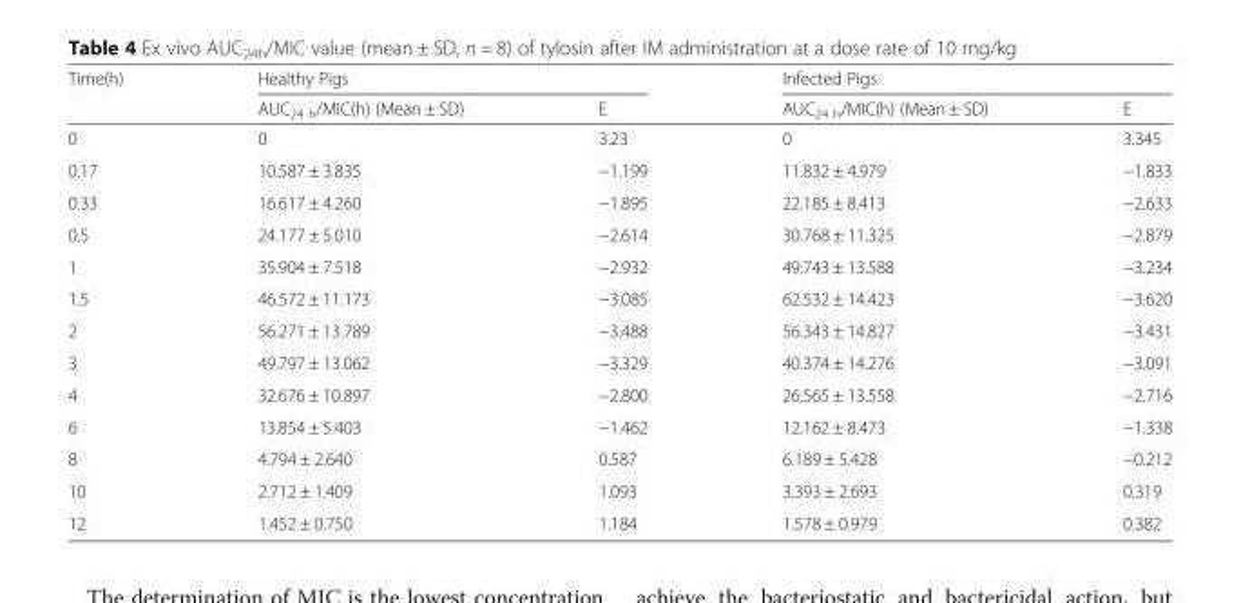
<table><thead><tr><td rowspan="2">Time(h)</td><td colspan="2">Healthy Pigs</td><td colspan="2">Infected Pigs</td></tr><tr><td>AUC<sub>24 h</sub>/MIC(h) (Mean ± SD)</td><td>E</td><td>AUC<sub>24 h</sub>/MIC(h) (Mean ± SD)</td><td>E</td></tr></thead><tbody><tr><td>0</td><td>0</td><td>3.23</td><td>0</td><td>3.345</td></tr><tr><td>0.17</td><td>10.587 ± 3.835</td><td>−1.199</td><td>11.832 ± 4.979</td><td>−1.833</td></tr><tr><td>0.33</td><td>16.617 ± 4.260</td><td>−1.895</td><td>22.185 ± 8.413</td><td>−2.633</td></tr><tr><td>0.5</td><td>24.177 ± 5.010</td><td>−2.614</td><td>30.768 ± 11.325</td><td>−2.879</td></tr><tr><td>1</td><td>35.904 ± 7.518</td><td>−2.932</td><td>49.743 ± 13.588</td><td>−3.234</td></tr><tr><td>1.5</td><td>46.572 ± 11.173</td><td>−3.085</td><td>62.532 ± 14.423</td><td>−3.620</td></tr><tr><td>2</td><td>56.271 ± 13.789</td><td>−3.488</td><td>56.343 ± 14.827</td><td>−3.431</td></tr><tr><td>3</td><td>49.797 ± 13.062</td><td>−3.329</td><td>40.374 ± 14.276</td><td>−3.091</td></tr><tr><td>4</td><td>32.676 ± 10.897</td><td>−2.800</td><td>26.565 ± 13.558</td><td>−2.716</td></tr><tr><td>6</td><td>13.854 ± 5.403</td><td>−1.462</td><td>12.162 ± 8.473</td><td>−1.338</td></tr><tr><td>8</td><td>4.794 ± 2.640</td><td>0.587</td><td>6.189 ± 5.428</td><td>−0.212</td></tr><tr><td>10</td><td>2.712 ± 1.409</td><td>1.093</td><td>3.393 ± 2.693</td><td>0.319</td></tr><tr><td>12</td><td>1.452 ± 0.750</td><td>1.184</td><td>1.578 ± 0.979</td><td>0.382</td></tr></tbody></table>